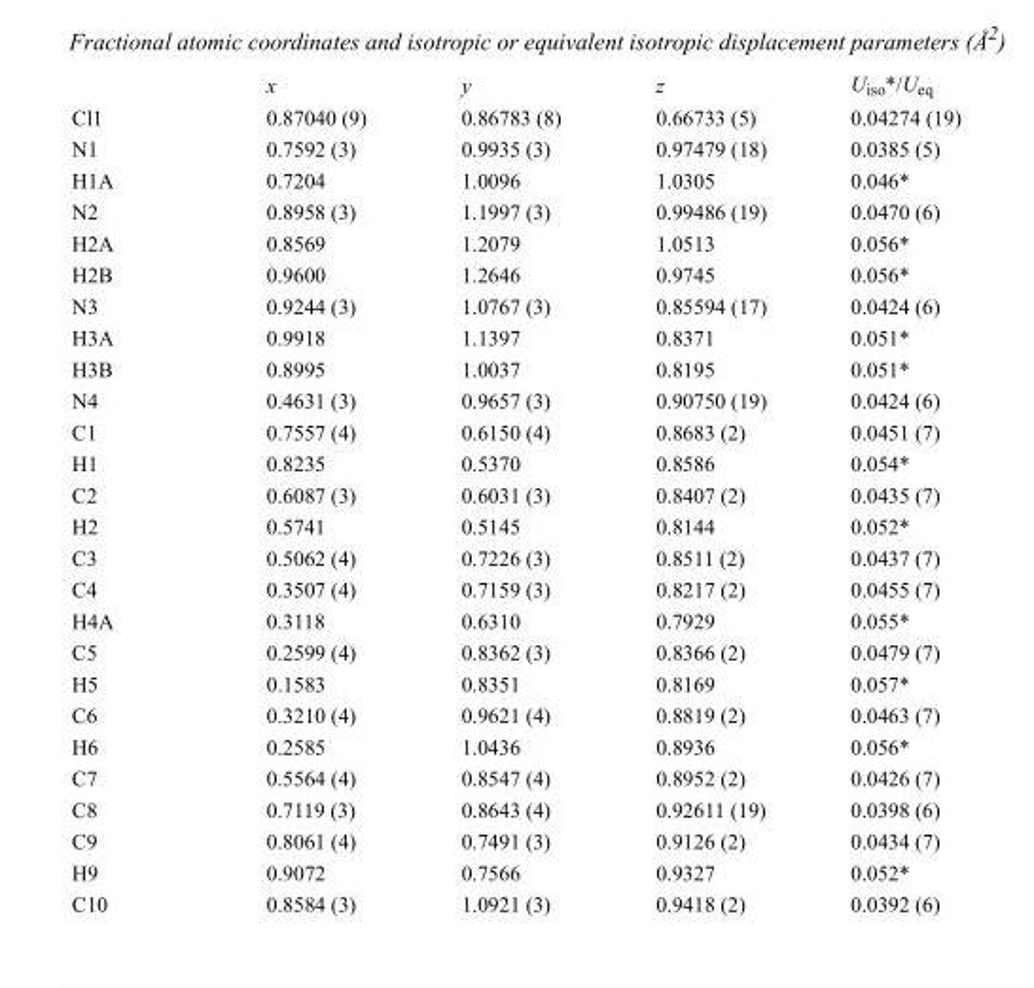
<table><thead><tr><td></td><td>x</td><td>y</td><td>z</td><td>U<sub>iso</sub>*/U<sub>eq</sub></td></tr></thead><tbody><tr><td>Cl1</td><td>0.87040 (9)</td><td>0.86783 (8)</td><td>0.66733 (5)</td><td>0.04274 (19)</td></tr><tr><td>N1</td><td>0.7592 (3)</td><td>0.9935 (3)</td><td>0.97479 (18)</td><td>0.0385 (5)</td></tr><tr><td>H1A</td><td>0.7204</td><td>1.0096</td><td>1.0305</td><td>0.046*</td></tr><tr><td>N2</td><td>0.8958 (3)</td><td>1.1997 (3)</td><td>0.99486 (19)</td><td>0.0470 (6)</td></tr><tr><td>H2A</td><td>0.8569</td><td>1.2079</td><td>1.0513</td><td>0.056*</td></tr><tr><td>H2B</td><td>0.9600</td><td>1.2646</td><td>0.9745</td><td>0.056*</td></tr><tr><td>N3</td><td>0.9244 (3)</td><td>1.0767 (3)</td><td>0.85594 (17)</td><td>0.0424 (6)</td></tr><tr><td>H3A</td><td>0.9918</td><td>1.1397</td><td>0.8371</td><td>0.051*</td></tr><tr><td>H3B</td><td>0.8995</td><td>1.0037</td><td>0.8195</td><td>0.051*</td></tr><tr><td>N4</td><td>0.4631 (3)</td><td>0.9657 (3)</td><td>0.90750 (19)</td><td>0.0424 (6)</td></tr><tr><td>C1</td><td>0.7557 (4)</td><td>0.6150 (4)</td><td>0.8683 (2)</td><td>0.0451 (7)</td></tr><tr><td>H1</td><td>0.8235</td><td>0.5370</td><td>0.8586</td><td>0.054*</td></tr><tr><td>C2</td><td>0.6087 (3)</td><td>0.6031 (3)</td><td>0.8407 (2)</td><td>0.0435 (7)</td></tr><tr><td>H2</td><td>0.5741</td><td>0.5145</td><td>0.8144</td><td>0.052*</td></tr><tr><td>C3</td><td>0.5062 (4)</td><td>0.7226 (3)</td><td>0.8511 (2)</td><td>0.0437 (7)</td></tr><tr><td>C4</td><td>0.3507 (4)</td><td>0.7159 (3)</td><td>0.8217 (2)</td><td>0.0455 (7)</td></tr><tr><td>H4A</td><td>0.3118</td><td>0.6310</td><td>0.7929</td><td>0.055*</td></tr><tr><td>C5</td><td>0.2599 (4)</td><td>0.8362 (3)</td><td>0.8366 (2)</td><td>0.0479 (7)</td></tr><tr><td>H5</td><td>0.1583</td><td>0.8351</td><td>0.8169</td><td>0.057*</td></tr><tr><td>C6</td><td>0.3210 (4)</td><td>0.9621 (4)</td><td>0.8819 (2)</td><td>0.0463 (7)</td></tr><tr><td>H6</td><td>0.2585</td><td>1.0436</td><td>0.8936</td><td>0.056*</td></tr><tr><td>C7</td><td>0.5564 (4)</td><td>0.8547 (4)</td><td>0.8952 (2)</td><td>0.0426 (7)</td></tr><tr><td>C8</td><td>0.7119 (3)</td><td>0.8643 (4)</td><td>0.92611 (19)</td><td>0.0398 (6)</td></tr><tr><td>C9</td><td>0.8061 (4)</td><td>0.7491 (3)</td><td>0.9126 (2)</td><td>0.0434 (7)</td></tr><tr><td>H9</td><td>0.9072</td><td>0.7566</td><td>0.9327</td><td>0.052*</td></tr><tr><td>C10</td><td>0.8584 (3)</td><td>1.0921 (3)</td><td>0.9418 (2)</td><td>0.0392 (6)</td></tr></tbody></table>